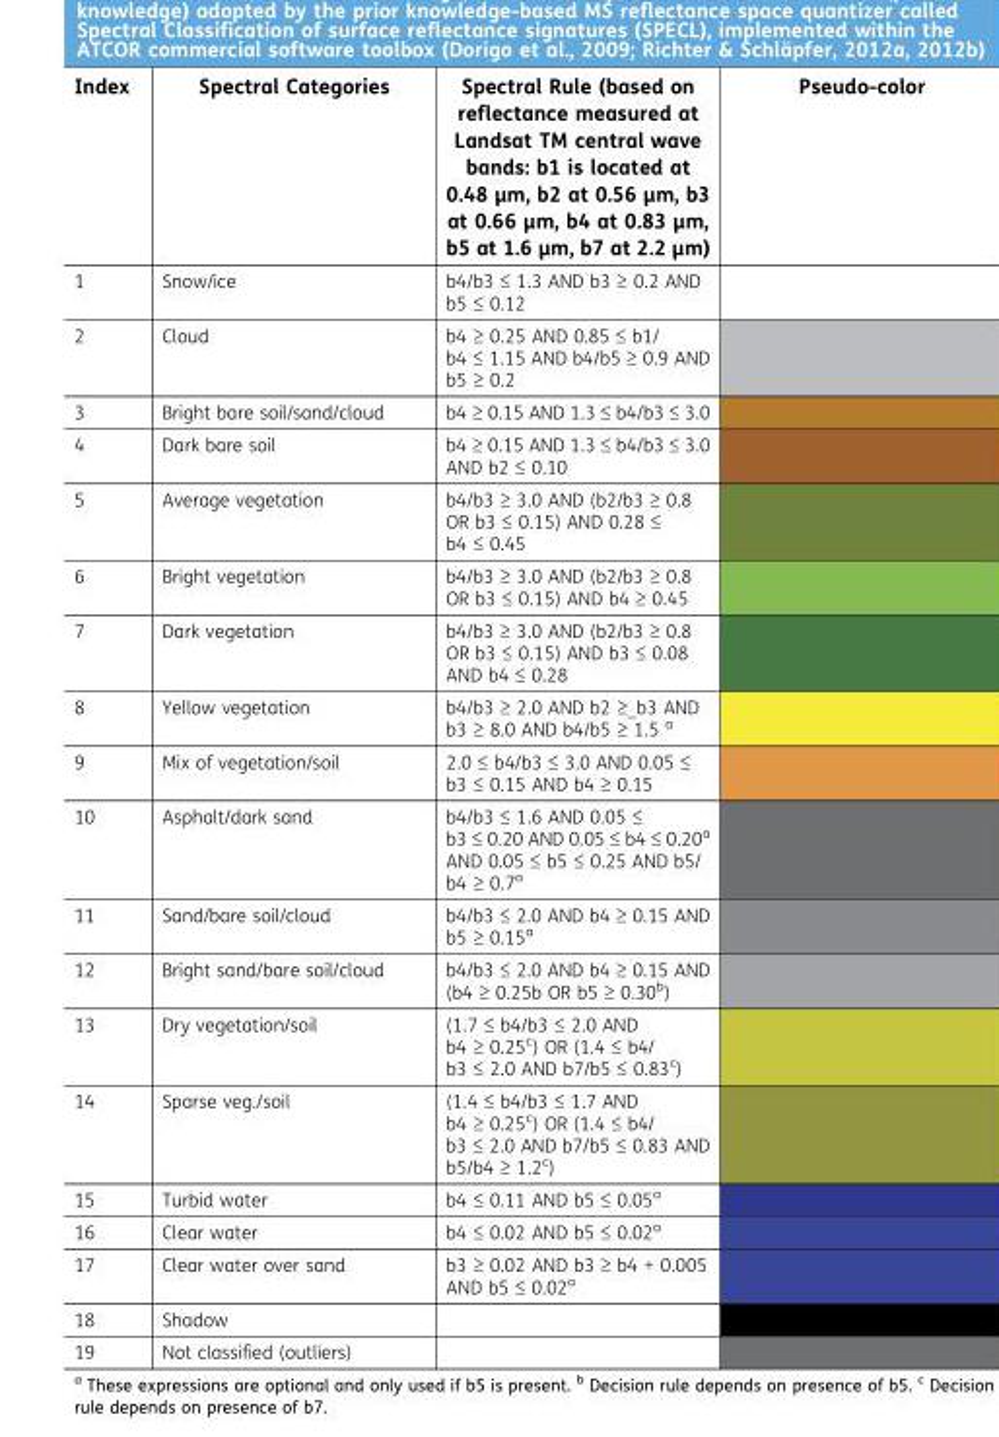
<table><thead><tr><td>Index</td><td>Spectral Categories</td><td>Spectral Rule (based on reflectance measured at Landsat TM central wave bands: b1 is located at 0.48 μm, b2 at 0.56 μm, b3 at 0.66 μm, b4 at 0.83 μm, b5 at 1.6 μm, b7 at 2.2 μm)</td><td>Pseudo-color</td></tr></thead><tbody><tr><td>1</td><td>Snow/ice</td><td>b4/b3 ≤ 1.3 AND b3 ≥ 0.2 AND b5 ≤ 0.12</td><td></td></tr><tr><td>2</td><td>Cloud</td><td>b4 ≥ 0.25 AND 0.85 ≤ b1/ b4 ≤ 1.15 AND b4/b5 ≥ 0.9 AND b5 ≥ 0.2</td><td></td></tr><tr><td>3</td><td>Bright bare soil/sand/cloud</td><td>b4 ≥ 0.15 AND 1.3 ≤ b4/b3 ≤ 3.0</td><td></td></tr><tr><td>4</td><td>Dark bare soil</td><td>b4 ≥ 0.15 AND 1.3 ≤ b4/b3 ≤ 3.0 AND b2 ≤ 0.10</td><td></td></tr><tr><td>5</td><td>Average vegetation</td><td>b4/b3 ≥ 3.0 AND (b2/b3 ≥ 0.8 OR b3 ≤ 0.15) AND 0.28 ≤ b4 ≤ 0.45</td><td></td></tr><tr><td>6</td><td>Bright vegetation</td><td>b4/b3 ≥ 3.0 AND (b2/b3 ≥ 0.8 OR b3 ≤ 0.15) AND b4 ≥ 0.45</td><td></td></tr><tr><td>7</td><td>Dark vegetation</td><td>b4/b3 ≥ 3.0 AND (b2/b3 ≥ 0.8 OR b3 ≤ 0.15) AND b3 ≤ 0.08 AND b4 ≤ 0.28</td><td></td></tr><tr><td>8</td><td>Yellow vegetation</td><td>b4/b3 ≥ 2.0 AND b2 ≥_b3 AND b3 ≥ 8.0 AND b4/b5 ≥ 1.5 <sup>a</sup></td><td></td></tr><tr><td>9</td><td>Mix of vegetation/soil</td><td>2.0 ≤ b4/b3 ≤ 3.0 AND 0.05 ≤ b3 ≤ 0.15 AND b4 ≥ 0.15</td><td></td></tr><tr><td>10</td><td>Asphalt/dark sand</td><td>b4/b3 ≤ 1.6 AND 0.05 ≤ b3 ≤ 0.20 AND 0.05 ≤ b4 ≤ 0.20<sup>a</sup> AND 0.05 ≤ b5 ≤ 0.25 AND b5/ b4 ≥ 0.7<sup>a</sup></td><td></td></tr><tr><td>11</td><td>Sand/bare soil/cloud</td><td>b4/b3 ≤ 2.0 AND b4 ≥ 0.15 AND b5 ≥ 0.15<sup>a</sup></td><td></td></tr><tr><td>12</td><td>Bright sand/bare soil/cloud</td><td>b4/b3 ≤ 2.0 AND b4 ≥ 0.15 AND (b4 ≥ 0.25b OR b5 ≥ 0.30<sup>b</sup>)</td><td></td></tr><tr><td>13</td><td>Dry vegetation/soil</td><td>(1.7 ≤ b4/b3 ≤ 2.0 AND b4 ≥ 0.25<sup>c</sup>) OR (1.4 ≤ b4/ b3 ≤ 2.0 AND b7/b5 ≤ 0.83<sup>c</sup>)</td><td></td></tr><tr><td>14</td><td>Sparse veg./soil</td><td>(1.4 ≤ b4/b3 ≤ 1.7 AND b4 ≥ 0.25<sup>c</sup>) OR (1.4 ≤ b4/ b3 ≤ 2.0 AND b7/b5 ≤ 0.83 AND b5/b4 ≥ 1.2<sup>c</sup>)</td><td></td></tr><tr><td>15</td><td>Turbid water</td><td>b4 ≤ 0.11 AND b5 ≤ 0.05<sup>a</sup></td><td></td></tr><tr><td>16</td><td>Clear water</td><td>b4 ≤ 0.02 AND b5 ≤ 0.02<sup>a</sup></td><td></td></tr><tr><td>17</td><td>Clear water over sand</td><td>b3 ≥ 0.02 AND b3 ≥ b4 + 0.005 AND b5 ≤ 0.02<sup>a</sup></td><td></td></tr><tr><td>18</td><td>Shadow</td><td></td><td></td></tr><tr><td>19</td><td>Not classified (outliers)</td><td></td><td></td></tr></tbody></table>